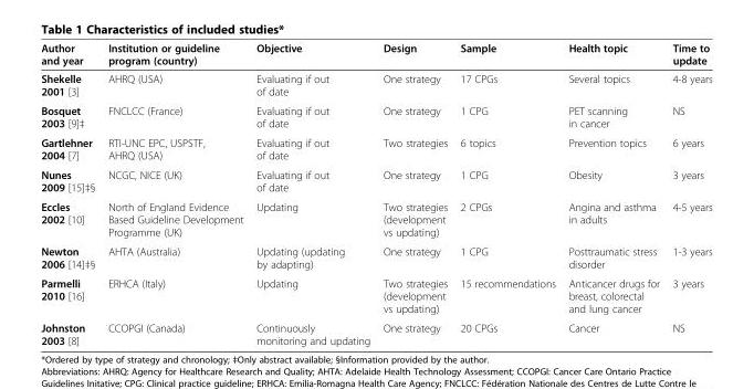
<table><thead><tr><td>Author and year</td><td>Institution or guideline program (country)</td><td>Objective</td><td>Design</td><td>Sample</td><td>Health topic</td><td>Time to update</td></tr></thead><tbody><tr><td>Shekelle 2001 [3]</td><td>AHRQ (USA)</td><td>Evaluating if out of date</td><td>One strategy</td><td>17 CPGs</td><td>Several topics</td><td>4-8 years</td></tr><tr><td>Bosquet 2003 [9]‡</td><td>FNCLCC (France)</td><td>Evaluating if out of date</td><td>One strategy</td><td>1 CPG</td><td>PET scanning in cancer</td><td>NS</td></tr><tr><td>Gartlehner 2004 [7]</td><td>RTI-UNC EPC, USPSTF, AHRQ (USA)</td><td>Evaluating if out of date</td><td>Two strategies</td><td>6 topics</td><td>Prevention topics</td><td>6 years</td></tr><tr><td>Nunes 2009 [15]‡§</td><td>NCGC, NICE (UK)</td><td>Evaluating if out of date</td><td>One strategy</td><td>1 CPG</td><td>Obesity</td><td>3 years</td></tr><tr><td>Eccles 2002 [10]</td><td>North of England Evidence Based Guideline Development Programme (UK)</td><td>Updating</td><td>Two strategies (development vs updating)</td><td>2 CPGs</td><td>Angina and asthma in adults</td><td>4-5 years</td></tr><tr><td>Newton 2006 [14]‡§</td><td>AHTA (Australia)</td><td>Updating (updating by adapting)</td><td>One strategy</td><td>1 CPG</td><td>Posttraumatic stress disorder</td><td>1-3 years</td></tr><tr><td>Parmelli 2010 [16]</td><td>ERHCA (Italy)</td><td>Updating</td><td>Two strategies (development vs updating)</td><td>15 recommendations</td><td>Anticancer drugs for breast, colorectal and lung cancer</td><td>3 years</td></tr><tr><td>Johnston 2003 [8]</td><td>CCOPGI (Canada)</td><td>Continuously monitoring and updating</td><td>One strategy</td><td>20 CPGs</td><td>Cancer</td><td>NS</td></tr></tbody></table>